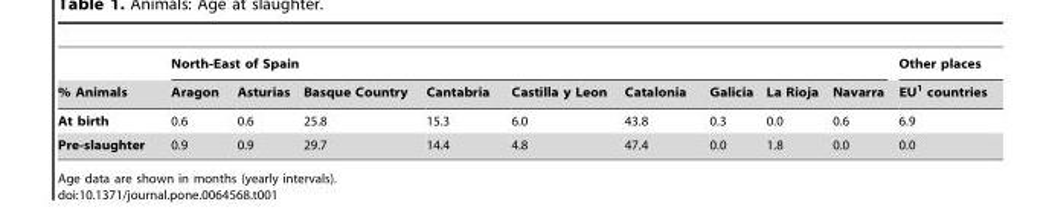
<table><thead><tr><td rowspan="2">% Animals</td><td colspan="9">North-East of Spain</td><td rowspan="2">Other places EU<sup>1</sup> countries</td></tr><tr><td>Aragon</td><td>Asturias</td><td>Basque Country</td><td>Cantabria</td><td>Castilla y Leon</td><td>Catalonia</td><td>Galicia</td><td>La Rioja</td><td>Navarra</td></tr></thead><tbody><tr><td>At birth</td><td>0.6</td><td>0.6</td><td>25.8</td><td>15.3</td><td>6.0</td><td>43.8</td><td>0.3</td><td>0.0</td><td>0.6</td><td>6.9</td></tr><tr><td>Pre-slaughter</td><td>0.9</td><td>0.9</td><td>29.7</td><td>14.4</td><td>4.8</td><td>47.4</td><td>0.0</td><td>1.8</td><td>0.0</td><td>0.0</td></tr></tbody></table>